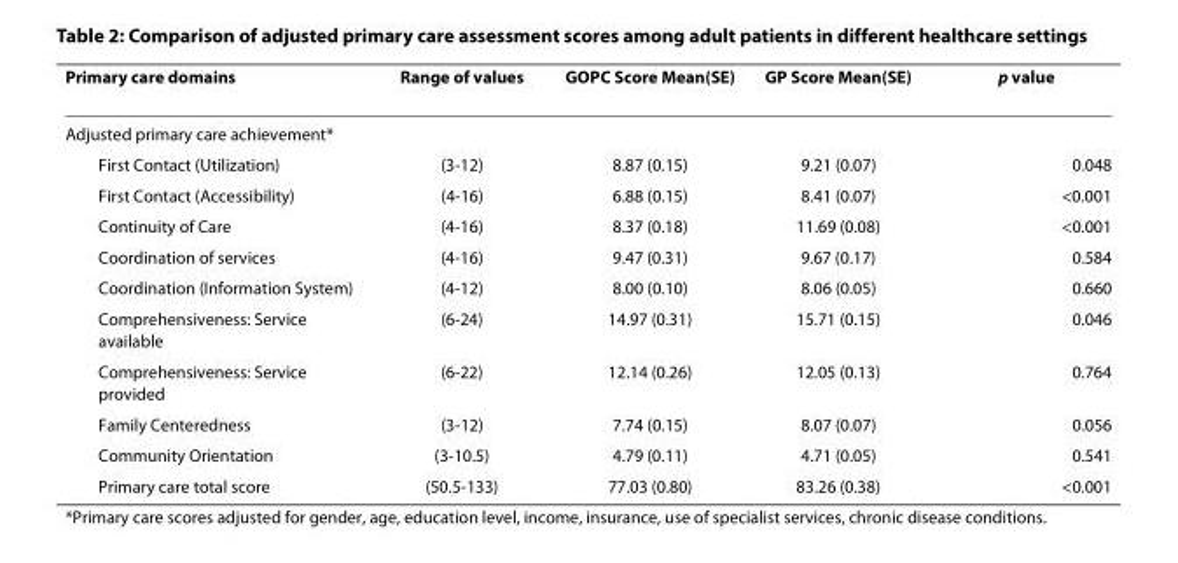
<table><thead><tr><td>Primary care domains</td><td>Range of values</td><td>GOPC Score Mean(SE)</td><td>GP Score Mean(SE)</td><td>p value</td></tr></thead><tbody><tr><td colspan="5">Adjusted primary care achievement*</td></tr><tr><td>First Contact (Utilization)</td><td>(3-12)</td><td>8.87 (0.15)</td><td>9.21 (0.07)</td><td>0.048</td></tr><tr><td>First Contact (Accessibility)</td><td>(4-16)</td><td>6.88 (0.15)</td><td>8.41 (0.07)</td><td>&lt;0.001</td></tr><tr><td>Continuity of Care</td><td>(4-16)</td><td>8.37 (0.18)</td><td>11.69 (0.08)</td><td>&lt;0.001</td></tr><tr><td>Coordination of services</td><td>(4-16)</td><td>9.47 (0.31)</td><td>9.67 (0.17)</td><td>0.584</td></tr><tr><td>Coordination (Information System)</td><td>(4-12)</td><td>8.00 (0.10)</td><td>8.06 (0.05)</td><td>0.660</td></tr><tr><td>Comprehensiveness: Service available</td><td>(6-24)</td><td>14.97 (0.31)</td><td>15.71 (0.15)</td><td>0.046</td></tr><tr><td>Comprehensiveness: Service provided</td><td>(6-22)</td><td>12.14 (0.26)</td><td>12.05 (0.13)</td><td>0.764</td></tr><tr><td>Family Centeredness</td><td>(3-12)</td><td>7.74 (0.15)</td><td>8.07 (0.07)</td><td>0.056</td></tr><tr><td>Community Orientation</td><td>(3-10.5)</td><td>4.79 (0.11)</td><td>4.71 (0.05)</td><td>0.541</td></tr><tr><td>Primary care total score</td><td>(50.5-133)</td><td>77.03 (0.80)</td><td>83.26 (0.38)</td><td>&lt;0.001</td></tr></tbody></table>